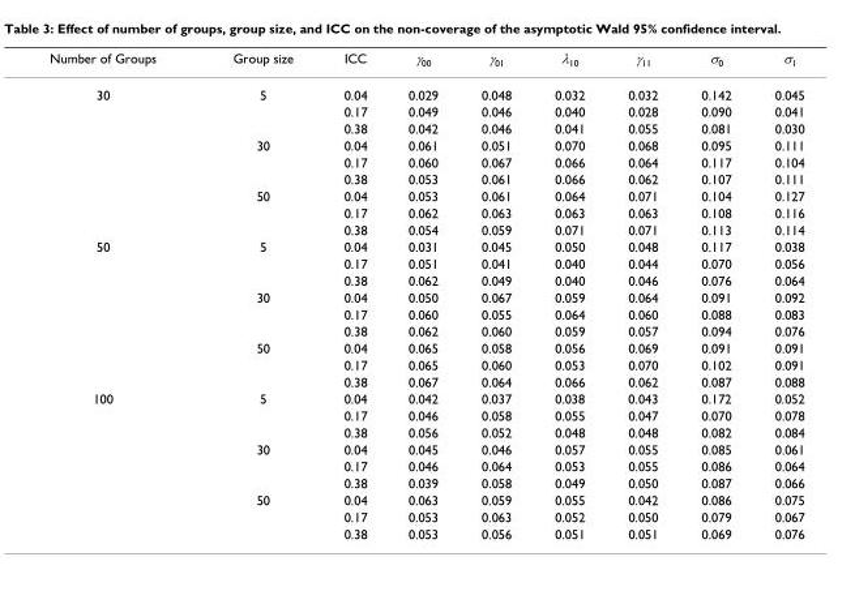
<table><thead><tr><td>Number of Groups</td><td>Group size</td><td>ICC</td><td>γ<sub>00</sub></td><td>γ<sub>01</sub></td><td>λ<sub>10</sub></td><td>γ<sub>11</sub></td><td>σ<sub>0</sub></td><td>σ<sub>1</sub></td></tr></thead><tbody><tr><td rowspan="9">30</td><td>5</td><td>0.04</td><td>0.029</td><td>0.048</td><td>0.032</td><td>0.032</td><td>0.142</td><td>0.045</td></tr><tr><td></td><td>0.17</td><td>0.049</td><td>0.046</td><td>0.040</td><td>0.028</td><td>0.090</td><td>0.041</td></tr><tr><td></td><td>0.38</td><td>0.042</td><td>0.046</td><td>0.041</td><td>0.055</td><td>0.081</td><td>0.030</td></tr><tr><td>30</td><td>0.04</td><td>0.061</td><td>0.051</td><td>0.070</td><td>0.068</td><td>0.095</td><td>0.111</td></tr><tr><td></td><td>0.17</td><td>0.060</td><td>0.067</td><td>0.066</td><td>0.064</td><td>0.117</td><td>0.104</td></tr><tr><td></td><td>0.38</td><td>0.053</td><td>0.061</td><td>0.066</td><td>0.062</td><td>0.107</td><td>0.111</td></tr><tr><td>50</td><td>0.04</td><td>0.053</td><td>0.061</td><td>0.064</td><td>0.071</td><td>0.104</td><td>0.127</td></tr><tr><td></td><td>0.17</td><td>0.062</td><td>0.063</td><td>0.063</td><td>0.063</td><td>0.108</td><td>0.116</td></tr><tr><td></td><td>0.38</td><td>0.054</td><td>0.059</td><td>0.071</td><td>0.071</td><td>0.113</td><td>0.114</td></tr><tr><td rowspan="9">50</td><td>5</td><td>0.04</td><td>0.031</td><td>0.045</td><td>0.050</td><td>0.048</td><td>0.117</td><td>0.038</td></tr><tr><td></td><td>0.17</td><td>0.051</td><td>0.041</td><td>0.040</td><td>0.044</td><td>0.070</td><td>0.056</td></tr><tr><td></td><td>0.38</td><td>0.062</td><td>0.049</td><td>0.040</td><td>0.046</td><td>0.076</td><td>0.064</td></tr><tr><td>30</td><td>0.04</td><td>0.050</td><td>0.067</td><td>0.059</td><td>0.064</td><td>0.091</td><td>0.092</td></tr><tr><td></td><td>0.17</td><td>0.060</td><td>0.055</td><td>0.064</td><td>0.060</td><td>0.088</td><td>0.083</td></tr><tr><td></td><td>0.38</td><td>0.062</td><td>0.060</td><td>0.059</td><td>0.057</td><td>0.094</td><td>0.076</td></tr><tr><td>50</td><td>0.04</td><td>0.065</td><td>0.058</td><td>0.056</td><td>0.069</td><td>0.091</td><td>0.091</td></tr><tr><td></td><td>0.17</td><td>0.065</td><td>0.060</td><td>0.053</td><td>0.070</td><td>0.102</td><td>0.091</td></tr><tr><td></td><td>0.38</td><td>0.067</td><td>0.064</td><td>0.066</td><td>0.062</td><td>0.087</td><td>0.088</td></tr><tr><td rowspan="9">100</td><td>5</td><td>0.04</td><td>0.042</td><td>0.037</td><td>0.038</td><td>0.043</td><td>0.172</td><td>0.052</td></tr><tr><td></td><td>0.17</td><td>0.046</td><td>0.058</td><td>0.055</td><td>0.047</td><td>0.070</td><td>0.078</td></tr><tr><td></td><td>0.38</td><td>0.056</td><td>0.052</td><td>0.048</td><td>0.048</td><td>0.082</td><td>0.084</td></tr><tr><td>30</td><td>0.04</td><td>0.045</td><td>0.046</td><td>0.057</td><td>0.055</td><td>0.085</td><td>0.061</td></tr><tr><td></td><td>0.17</td><td>0.046</td><td>0.064</td><td>0.053</td><td>0.055</td><td>0.086</td><td>0.064</td></tr><tr><td></td><td>0.38</td><td>0.039</td><td>0.058</td><td>0.049</td><td>0.050</td><td>0.087</td><td>0.066</td></tr><tr><td>50</td><td>0.04</td><td>0.063</td><td>0.059</td><td>0.055</td><td>0.042</td><td>0.086</td><td>0.075</td></tr><tr><td></td><td>0.17</td><td>0.053</td><td>0.063</td><td>0.052</td><td>0.050</td><td>0.079</td><td>0.067</td></tr><tr><td></td><td>0.38</td><td>0.053</td><td>0.056</td><td>0.051</td><td>0.051</td><td>0.069</td><td>0.076</td></tr></tbody></table>